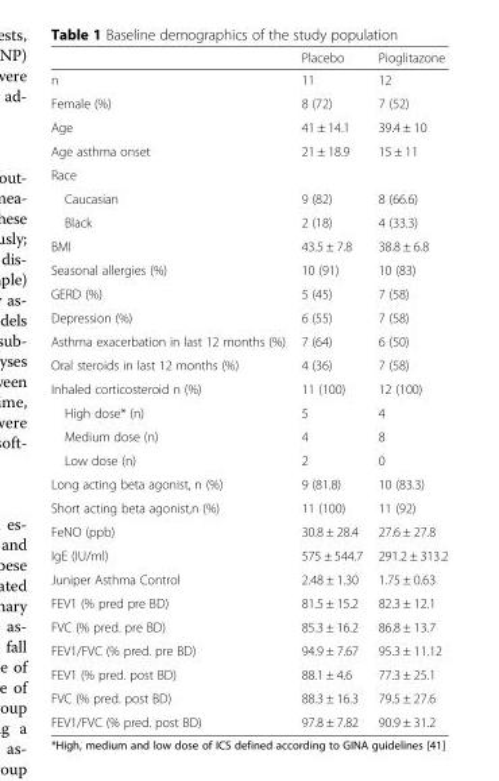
<table><thead><tr><td></td><td>Placebo</td><td>Pioglitazone</td></tr></thead><tbody><tr><td>n</td><td>11</td><td>12</td></tr><tr><td>Female (%)</td><td>8 (72)</td><td>7 (52)</td></tr><tr><td>Age</td><td>41 ± 14.1</td><td>39.4 ± 10</td></tr><tr><td>Age asthma onset</td><td>21 ± 18.9</td><td>15 ± 11</td></tr><tr><td colspan="3">Race</td></tr><tr><td>Caucasian</td><td>9 (82)</td><td>8 (66.6)</td></tr><tr><td>Black</td><td>2 (18)</td><td>4 (33.3)</td></tr><tr><td>BMI</td><td>43.5 ± 7.8</td><td>38.8 ± 6.8</td></tr><tr><td>Seasonal allergies (%)</td><td>10 (91)</td><td>10 (83)</td></tr><tr><td>GERD (%)</td><td>5 (45)</td><td>7 (58)</td></tr><tr><td>Depression (%)</td><td>6 (55)</td><td>7 (58)</td></tr><tr><td>Asthma exacerbation in last 12 months (%)</td><td>7 (64)</td><td>6 (50)</td></tr><tr><td>Oral steroids in last 12 months (%)</td><td>4 (36)</td><td>7 (58)</td></tr><tr><td>Inhaled corticosteroid n (%)</td><td>11 (100)</td><td>12 (100)</td></tr><tr><td>High dose* (n)</td><td>5</td><td>4</td></tr><tr><td>Medium dose (n)</td><td>4</td><td>8</td></tr><tr><td>Low dose (n)</td><td>2</td><td>0</td></tr><tr><td>Long acting beta agonist, n (%)</td><td>9 (81.8)</td><td>10 (83.3)</td></tr><tr><td>Short acting beta agonist,n (%)</td><td>11 (100)</td><td>11 (92)</td></tr><tr><td>FeNO (ppb)</td><td>30.8 ± 28.4</td><td>27.6 ± 27.8</td></tr><tr><td>IgE (IU/ml)</td><td>575 ± 544.7</td><td>291.2 ± 313.2</td></tr><tr><td>Juniper Asthma Control</td><td>2.48 ± 1.30</td><td>1.75 ± 0.63</td></tr><tr><td>FEV1 (% pred pre BD)</td><td>81.5 ± 15.2</td><td>82.3 ± 12.1</td></tr><tr><td>FVC (% pred. pre BD)</td><td>85.3 ± 16.2</td><td>86.8 ± 13.7</td></tr><tr><td>FEV1/FVC (% pred. pre BD)</td><td>94.9 ± 7.67</td><td>95.3 ± 11.12</td></tr><tr><td>FEV1 (% pred. post BD)</td><td>88.1 ± 4.6</td><td>77.3 ± 25.1</td></tr><tr><td>FVC (% pred. post BD)</td><td>88.3 ± 16.3</td><td>79.5 ± 27.6</td></tr><tr><td>FEV1/FVC (% pred. post BD)</td><td>97.8 ± 7.82</td><td>90.9 ± 31.2</td></tr></tbody></table>